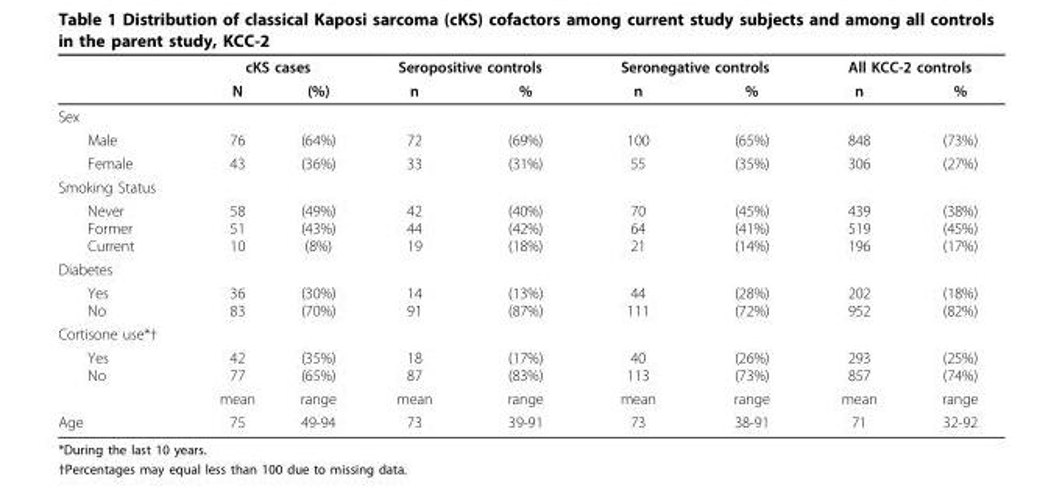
<table><thead><tr><td rowspan="2"></td><td colspan="2">cKS cases</td><td colspan="2">Seropositive controls</td><td colspan="2">Seronegative controls</td><td colspan="2">All KCC-2 controls</td></tr><tr><td>N</td><td>(%)</td><td>n</td><td>%</td><td>n</td><td>%</td><td>n</td><td>%</td></tr></thead><tbody><tr><td colspan="9">Sex</td></tr><tr><td>Male</td><td>76</td><td>(64%)</td><td>72</td><td>(69%)</td><td>100</td><td>(65%)</td><td>848</td><td>(73%)</td></tr><tr><td>Female</td><td>43</td><td>(36%)</td><td>33</td><td>(31%)</td><td>55</td><td>(35%)</td><td>306</td><td>(27%)</td></tr><tr><td colspan="9">Smoking Status</td></tr><tr><td>Never Former Current</td><td>58 51 10</td><td>(49%) (43%) (8%)</td><td>42 44 19</td><td>(40%) (42%) (18%)</td><td>70 64 21</td><td>(45%) (41%) (14%)</td><td>439 519 196</td><td>(38%) (45%) (17%)</td></tr><tr><td colspan="9">Diabetes</td></tr><tr><td>Yes No</td><td>36 83</td><td>(30%) (70%)</td><td>14 91</td><td>(13%) (87%)</td><td>44 111</td><td>(28%) (72%)</td><td>202 952</td><td>(18%) (82%)</td></tr><tr><td colspan="9">Cortisone use*†</td></tr><tr><td rowspan="2">Yes No</td><td>42 77</td><td>(35%) (65%)</td><td>18 87</td><td>(17%) (83%)</td><td>40 113</td><td>(26%) (73%)</td><td>293 857</td><td>(25%) (74%)</td></tr><tr><td>mean</td><td>range</td><td>mean</td><td>range</td><td>mean</td><td>range</td><td>mean</td><td>range</td></tr><tr><td>Age</td><td>75</td><td>49-94</td><td>73</td><td>39-91</td><td>73</td><td>38-91</td><td>71</td><td>32-92</td></tr></tbody></table>